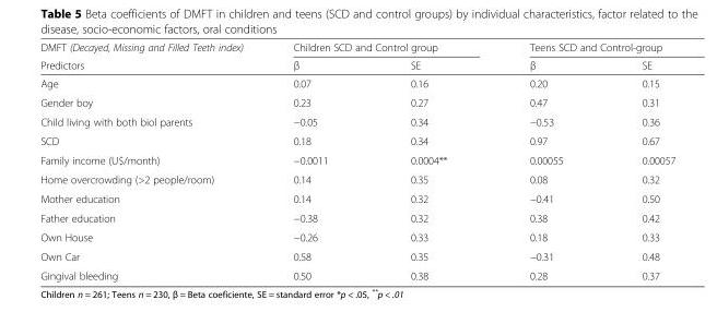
<table><thead><tr><td rowspan="2">DMFT (Decayed, Missing and Filled Teeth index) Predictors</td><td colspan="2">Children SCD and Control group</td><td colspan="2">Teens SCD and Control-group</td></tr><tr><td>β</td><td>SE</td><td>β</td><td>SE</td></tr></thead><tbody><tr><td>Age</td><td>0.07</td><td>0.16</td><td>0.20</td><td>0.15</td></tr><tr><td>Gender boy</td><td>0.23</td><td>0.27</td><td>0.47</td><td>0.31</td></tr><tr><td>Child living with both biol parents</td><td>−0.05</td><td>0.34</td><td>−0.53</td><td>0.36</td></tr><tr><td>SCD</td><td>0.18</td><td>0.34</td><td>0.97</td><td>0.67</td></tr><tr><td>Family income (U$/month)</td><td>−0.0011</td><td>0.0004**</td><td>0.00055</td><td>0.00057</td></tr><tr><td>Home overcrowding (&gt;2 people/room)</td><td>0.14</td><td>0.35</td><td>0.08</td><td>0.32</td></tr><tr><td>Mother education</td><td>0.14</td><td>0.32</td><td>−0.41</td><td>0.50</td></tr><tr><td>Father education</td><td>−0.38</td><td>0.32</td><td>0.38</td><td>0.42</td></tr><tr><td>Own House</td><td>−0.26</td><td>0.33</td><td>0.18</td><td>0.33</td></tr><tr><td>Own Car</td><td>0.58</td><td>0.35</td><td>−0.31</td><td>0.48</td></tr><tr><td>Gingival bleeding</td><td>0.50</td><td>0.38</td><td>0.28</td><td>0.37</td></tr></tbody></table>